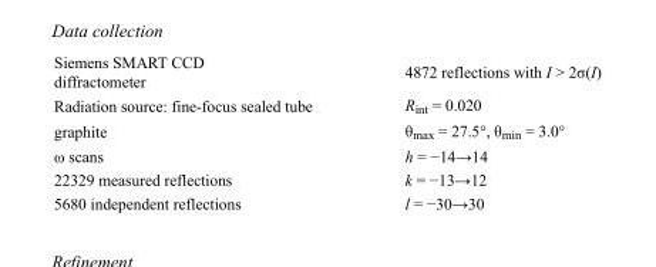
<table><tbody><tr><td>Siemens SMART CCD diffractometer</td><td>4872 reflections with I &gt; 2σ(I)</td></tr><tr><td>Radiation source: fine-focus sealed tube</td><td>R<sub>int</sub> = 0.020</td></tr><tr><td>graphite</td><td>θ<sub>max</sub> = 27.5°, θ<sub>min</sub> = 3.0°</td></tr><tr><td>ω scans</td><td>h = −14→14</td></tr><tr><td>22329 measured reflections</td><td>k = −13→12</td></tr><tr><td>5680 independent reflections</td><td>l = −30→30</td></tr></tbody></table>